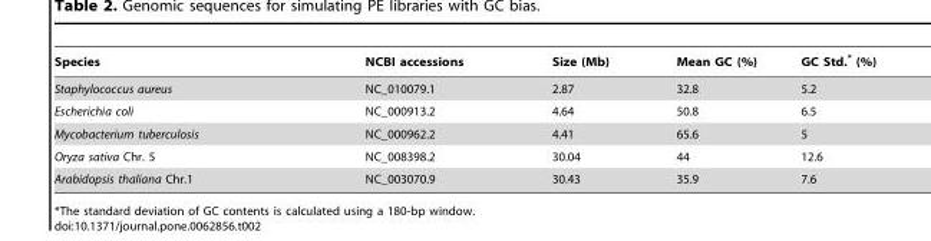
<table><thead><tr><td>Species</td><td>NCBI accessions</td><td>Size (Mb)</td><td>Mean GC (%)</td><td>GC Std.* (%)</td></tr></thead><tbody><tr><td>Staphylococcus aureus</td><td>NC_010079.1</td><td>2.87</td><td>32.8</td><td>5.2</td></tr><tr><td>Escherichia coli</td><td>NC_000913.2</td><td>4.64</td><td>50.8</td><td>6.5</td></tr><tr><td>Mycobacterium tuberculosis</td><td>NC_000962.2</td><td>4.41</td><td>65.6</td><td>5</td></tr><tr><td>Oryza sativa Chr. 5</td><td>NC_008398.2</td><td>30.04</td><td>44</td><td>12.6</td></tr><tr><td>Arabidopsis thaliana Chr.1</td><td>NC_003070.9</td><td>30.43</td><td>35.9</td><td>7.6</td></tr></tbody></table>